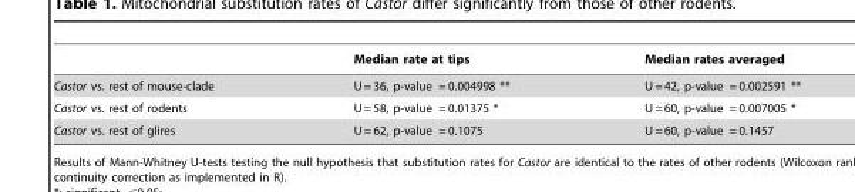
<table><thead><tr><td></td><td>Median rate at tips</td><td>Median rates averaged</td></tr></thead><tbody><tr><td>Castor vs. rest of mouse-clade</td><td>U = 36, p-value = 0.004998 **</td><td>U = 42, p-value = 0.002591 **</td></tr><tr><td>Castor vs. rest of rodents</td><td>U = 58, p-value = 0.01375 *</td><td>U = 60, p-value = 0.007005 *</td></tr><tr><td>Castor vs. rest of glires</td><td>U = 62, p-value = 0.1075</td><td>U = 60, p-value = 0.1457</td></tr></tbody></table>